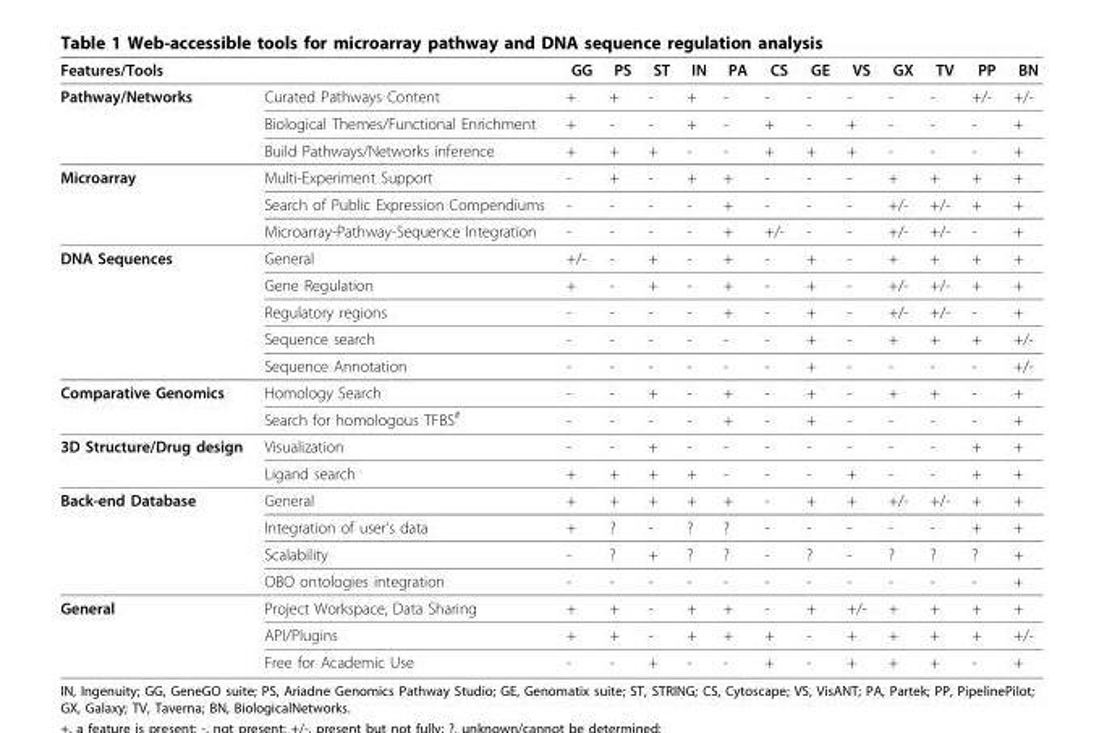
<table><thead><tr><td colspan="2">Features/Tools</td><td rowspan="2">GG +</td><td rowspan="2">PS +</td><td rowspan="2">ST -</td><td rowspan="2">IN +</td><td rowspan="2">PA -</td><td rowspan="2">CS -</td><td rowspan="2">GE -</td><td rowspan="2">VS -</td><td rowspan="2">GX -</td><td rowspan="2">TV -</td><td rowspan="2">PP +/-</td><td rowspan="2">BN +/-</td></tr><tr><td>Pathway/Networks</td><td>Curated Pathways Content</td></tr></thead><tbody><tr><td></td><td>Biological Themes/Functional Enrichment</td><td>+</td><td>-</td><td>-</td><td>+</td><td>-</td><td>+</td><td>-</td><td>+</td><td>-</td><td>-</td><td>-</td><td>+</td></tr><tr><td></td><td>Build Pathways/Networks inference</td><td>+</td><td>+</td><td>+</td><td>-</td><td>-</td><td>+</td><td>+</td><td>+</td><td>-</td><td>-</td><td>-</td><td>+</td></tr><tr><td rowspan="3">Microarray</td><td>Multi-Experiment Support</td><td>-</td><td>+</td><td>-</td><td>+</td><td>+</td><td>-</td><td>-</td><td>-</td><td>+</td><td>+</td><td>+</td><td>+</td></tr><tr><td>Search of Public Expression Compendiums</td><td>-</td><td>-</td><td>-</td><td>-</td><td>+</td><td>-</td><td>-</td><td>-</td><td>+/-</td><td>+/-</td><td>+</td><td>+</td></tr><tr><td>Microarray-Pathway-Sequence Integration</td><td>-</td><td>-</td><td>-</td><td>-</td><td>+</td><td>+/-</td><td>-</td><td>-</td><td>+/-</td><td>+/-</td><td>-</td><td>+</td></tr><tr><td rowspan="5">DNA Sequences</td><td>General</td><td>+/-</td><td>-</td><td>+</td><td>-</td><td>+</td><td>-</td><td>+</td><td>-</td><td>+</td><td>+</td><td>+</td><td>+</td></tr><tr><td>Gene Regulation</td><td>+</td><td>-</td><td>+</td><td>-</td><td>+</td><td>-</td><td>+</td><td>-</td><td>+/-</td><td>+/-</td><td>+</td><td>+</td></tr><tr><td>Regulatory regions</td><td>-</td><td>-</td><td>-</td><td>-</td><td>+</td><td>-</td><td>+</td><td>-</td><td>+/-</td><td>+/-</td><td>-</td><td>+</td></tr><tr><td>Sequence search</td><td>-</td><td>-</td><td>-</td><td>-</td><td>-</td><td>-</td><td>+</td><td>-</td><td>+</td><td>+</td><td>+</td><td>+/-</td></tr><tr><td>Sequence Annotation</td><td>-</td><td>-</td><td>-</td><td>-</td><td>-</td><td>-</td><td>+</td><td>-</td><td>-</td><td>-</td><td>-</td><td>+/-</td></tr><tr><td rowspan="2">Comparative Genomics</td><td>Homology Search</td><td>-</td><td>-</td><td>+</td><td>-</td><td>+</td><td>-</td><td>+</td><td>-</td><td>+</td><td>+</td><td>-</td><td>+</td></tr><tr><td>Search for homologous TFBS<sup>#</sup></td><td>-</td><td>-</td><td>-</td><td>-</td><td>+</td><td>-</td><td>+</td><td>-</td><td>-</td><td>-</td><td>-</td><td>+</td></tr><tr><td rowspan="2">3D Structure/Drug design</td><td>Visualization</td><td>-</td><td>-</td><td>+</td><td>-</td><td>-</td><td>-</td><td>-</td><td>-</td><td>-</td><td>-</td><td>+</td><td>+</td></tr><tr><td>Ligand search</td><td>+</td><td>+</td><td>+</td><td>+</td><td>-</td><td>-</td><td>-</td><td>+</td><td>-</td><td>-</td><td>+</td><td>+</td></tr><tr><td rowspan="4">Back-end Database</td><td>General</td><td>+</td><td>+</td><td>+</td><td>+</td><td>+</td><td>-</td><td>+</td><td>+</td><td>+/-</td><td>+/-</td><td>+</td><td>+</td></tr><tr><td>Integration of user’s data</td><td>+</td><td>?</td><td>-</td><td>?</td><td>?</td><td>-</td><td>-</td><td>-</td><td>-</td><td>-</td><td>+</td><td>+</td></tr><tr><td>Scalability</td><td>-</td><td>?</td><td>+</td><td>?</td><td>?</td><td>-</td><td>?</td><td>-</td><td>?</td><td>?</td><td>?</td><td>+</td></tr><tr><td>OBO ontologies integration</td><td>-</td><td>-</td><td>-</td><td>-</td><td>-</td><td>-</td><td>-</td><td>-</td><td>-</td><td>-</td><td>-</td><td>+</td></tr><tr><td rowspan="3">General</td><td>Project Workspace, Data Sharing</td><td>+</td><td>+</td><td>-</td><td>+</td><td>+</td><td>-</td><td>+</td><td>+/-</td><td>+</td><td>+</td><td>+</td><td>+</td></tr><tr><td>API/Plugins</td><td>+</td><td>+</td><td>-</td><td>+</td><td>+</td><td>+</td><td>-</td><td>+</td><td>+</td><td>+</td><td>+</td><td>+/-</td></tr><tr><td>Free for Academic Use</td><td>-</td><td>-</td><td>+</td><td>-</td><td>-</td><td>+</td><td>-</td><td>+</td><td>+</td><td>+</td><td>-</td><td>+</td></tr></tbody></table>